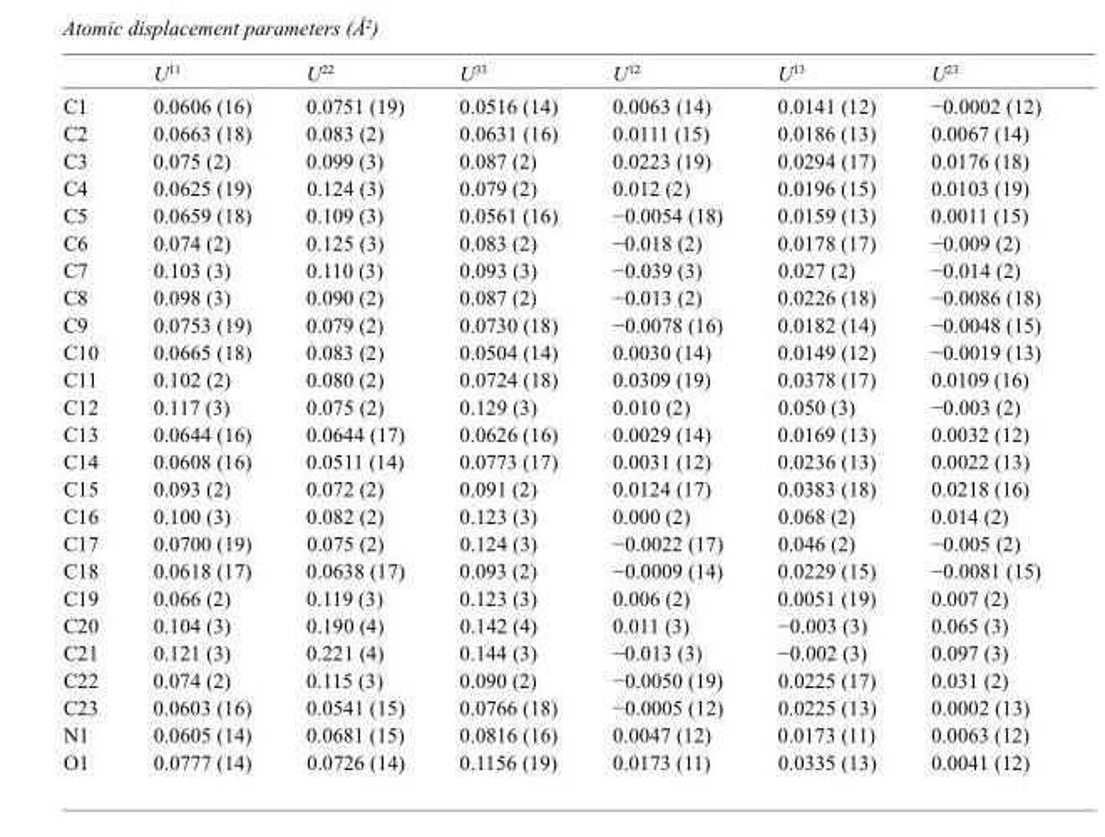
<table><thead><tr><td></td><td>U<sup>11</sup></td><td>U<sup>22</sup></td><td>U<sup>33</sup></td><td>U<sup>12</sup></td><td>U<sup>13</sup></td><td>U<sup>23</sup></td></tr></thead><tbody><tr><td>C1</td><td>0.0606 (16)</td><td>0.0751 (19)</td><td>0.0516 (14)</td><td>0.0063 (14)</td><td>0.0141 (12)</td><td>−0.0002 (12)</td></tr><tr><td>C2</td><td>0.0663 (18)</td><td>0.083 (2)</td><td>0.0631 (16)</td><td>0.0111 (15)</td><td>0.0186 (13)</td><td>0.0067 (14)</td></tr><tr><td>C3</td><td>0.075 (2)</td><td>0.099 (3)</td><td>0.087 (2)</td><td>0.0223 (19)</td><td>0.0294 (17)</td><td>0.0176 (18)</td></tr><tr><td>C4</td><td>0.0625 (19)</td><td>0.124 (3)</td><td>0.079 (2)</td><td>0.012 (2)</td><td>0.0196 (15)</td><td>0.0103 (19)</td></tr><tr><td>C5</td><td>0.0659 (18)</td><td>0.109 (3)</td><td>0.0561 (16)</td><td>−0.0054 (18)</td><td>0.0159 (13)</td><td>0.0011 (15)</td></tr><tr><td>C6</td><td>0.074 (2)</td><td>0.125 (3)</td><td>0.083 (2)</td><td>−0.018 (2)</td><td>0.0178 (17)</td><td>−0.009 (2)</td></tr><tr><td>C7</td><td>0.103 (3)</td><td>0.110 (3)</td><td>0.093 (3)</td><td>−0.039 (3)</td><td>0.027 (2)</td><td>−0.014 (2)</td></tr><tr><td>C8</td><td>0.098 (3)</td><td>0.090 (2)</td><td>0.087 (2)</td><td>−0.013 (2)</td><td>0.0226 (18)</td><td>−0.0086 (18)</td></tr><tr><td>C9</td><td>0.0753 (19)</td><td>0.079 (2)</td><td>0.0730 (18)</td><td>−0.0078 (16)</td><td>0.0182 (14)</td><td>−0.0048 (15)</td></tr><tr><td>C10</td><td>0.0665 (18)</td><td>0.083 (2)</td><td>0.0504 (14)</td><td>0.0030 (14)</td><td>0.0149 (12)</td><td>−0.0019 (13)</td></tr><tr><td>C11</td><td>0.102 (2)</td><td>0.080 (2)</td><td>0.0724 (18)</td><td>0.0309 (19)</td><td>0.0378 (17)</td><td>0.0109 (16)</td></tr><tr><td>C12</td><td>0.117 (3)</td><td>0.075 (2)</td><td>0.129 (3)</td><td>0.010 (2)</td><td>0.050 (3)</td><td>−0.003 (2)</td></tr><tr><td>C13</td><td>0.0644 (16)</td><td>0.0644 (17)</td><td>0.0626 (16)</td><td>0.0029 (14)</td><td>0.0169 (13)</td><td>0.0032 (12)</td></tr><tr><td>C14</td><td>0.0608 (16)</td><td>0.0511 (14)</td><td>0.0773 (17)</td><td>0.0031 (12)</td><td>0.0236 (13)</td><td>0.0022 (13)</td></tr><tr><td>C15</td><td>0.093 (2)</td><td>0.072 (2)</td><td>0.091 (2)</td><td>0.0124 (17)</td><td>0.0383 (18)</td><td>0.0218 (16)</td></tr><tr><td>C16</td><td>0.100 (3)</td><td>0.082 (2)</td><td>0.123 (3)</td><td>0.000 (2)</td><td>0.068 (2)</td><td>0.014 (2)</td></tr><tr><td>C17</td><td>0.0700 (19)</td><td>0.075 (2)</td><td>0.124 (3)</td><td>−0.0022 (17)</td><td>0.046 (2)</td><td>−0.005 (2)</td></tr><tr><td>C18</td><td>0.0618 (17)</td><td>0.0638 (17)</td><td>0.093 (2)</td><td>−0.0009 (14)</td><td>0.0229 (15)</td><td>−0.0081 (15)</td></tr><tr><td>C19</td><td>0.066 (2)</td><td>0.119 (3)</td><td>0.123 (3)</td><td>0.006 (2)</td><td>0.0051 (19)</td><td>0.007 (2)</td></tr><tr><td>C20</td><td>0.104 (3)</td><td>0.190 (4)</td><td>0.142 (4)</td><td>0.011 (3)</td><td>−0.003 (3)</td><td>0.065 (3)</td></tr><tr><td>C21</td><td>0.121 (3)</td><td>0.221 (4)</td><td>0.144 (3)</td><td>−0.013 (3)</td><td>−0.002 (3)</td><td>0.097 (3)</td></tr><tr><td>C22</td><td>0.074 (2)</td><td>0.115 (3)</td><td>0.090 (2)</td><td>−0.0050 (19)</td><td>0.0225 (17)</td><td>0.031 (2)</td></tr><tr><td>C23</td><td>0.0603 (16)</td><td>0.0541 (15)</td><td>0.0766 (18)</td><td>−0.0005 (12)</td><td>0.0225 (13)</td><td>0.0002 (13)</td></tr><tr><td>N1</td><td>0.0605 (14)</td><td>0.0681 (15)</td><td>0.0816 (16)</td><td>0.0047 (12)</td><td>0.0173 (11)</td><td>0.0063 (12)</td></tr><tr><td>O1</td><td>0.0777 (14)</td><td>0.0726 (14)</td><td>0.1156 (19)</td><td>0.0173 (11)</td><td>0.0335 (13)</td><td>0.0041 (12)</td></tr></tbody></table>